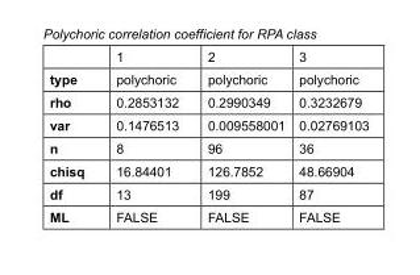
<table><thead><tr><td></td><td>1</td><td>2</td><td>3</td></tr></thead><tbody><tr><td>type</td><td>polychoric</td><td>polychoric</td><td>polychoric</td></tr><tr><td>rho</td><td>0.2853132</td><td>0.2990349</td><td>0.3232679</td></tr><tr><td>var</td><td>0.1476513</td><td>0.009558001</td><td>0.02769103</td></tr><tr><td>n</td><td>8</td><td>96</td><td>36</td></tr><tr><td>chisq</td><td>16.84401</td><td>126.7852</td><td>48.66904</td></tr><tr><td>df</td><td>13</td><td>199</td><td>87</td></tr><tr><td>ML</td><td>FALSE</td><td>FALSE</td><td>FALSE</td></tr></tbody></table>